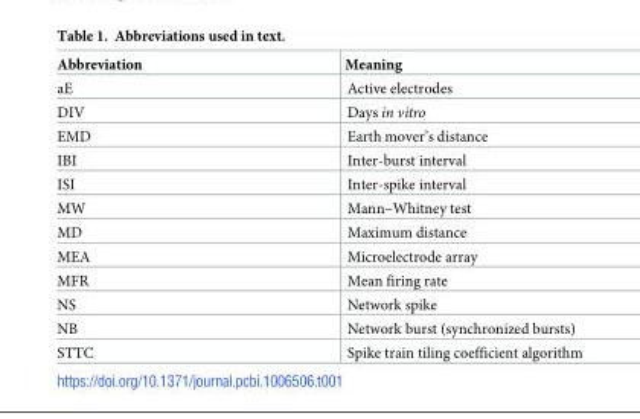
<table><thead><tr><td>Abbreviation</td><td>Meaning</td></tr></thead><tbody><tr><td>aE</td><td>Active electrodes</td></tr><tr><td>DIV</td><td>Days in vitro</td></tr><tr><td>EMD</td><td>Earth mover’s distance</td></tr><tr><td>IBI</td><td>Inter-burst interval</td></tr><tr><td>ISI</td><td>Inter-spike interval</td></tr><tr><td>MW</td><td>Mann–Whitney test</td></tr><tr><td>MD</td><td>Maximum distance</td></tr><tr><td>MEA</td><td>Microelectrode array</td></tr><tr><td>MFR</td><td>Mean firing rate</td></tr><tr><td>NS</td><td>Network spike</td></tr><tr><td>NB</td><td>Network burst (synchronized bursts)</td></tr><tr><td>STTC</td><td>Spike train tiling coefficient algorithm</td></tr></tbody></table>